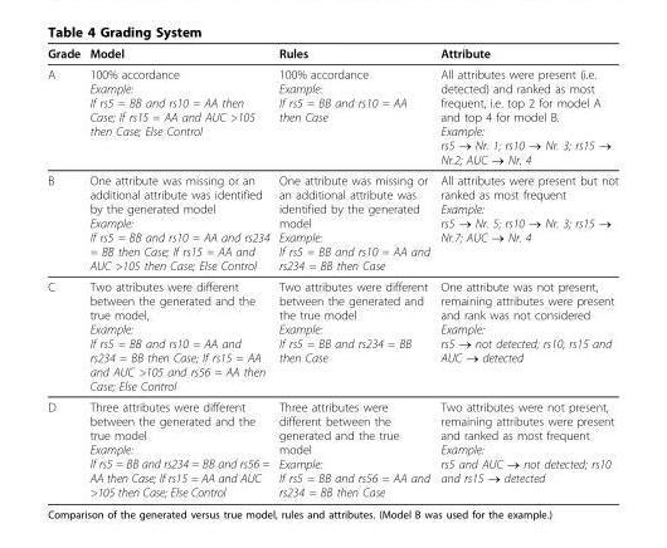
<table><thead><tr><td>Grade</td><td>Model</td><td>Rules</td><td>Attribute</td></tr></thead><tbody><tr><td>A</td><td>100% accordance Example: If rs5 = BB and rs10 = AA then Case; If rs15 = AA and AUC &gt;105 then Case; Else Control</td><td>100% accordance Example: If rs5 = BB and rs10 = AA then Case</td><td>All attributes were present (i.e. detected) and ranked as most frequent, i.e. top 2 for model A and top 4 for model B. Example: rs5 → Nr. 1; rs10 → Nr. 3; rs15 → Nr.2; AUC → Nr. 4</td></tr><tr><td>B</td><td>One attribute was missing or an additional attribute was identified by the generated model Example: If rs5 = BB and rs10 = AA and rs234 = BB then Case; If rs15 = AA and AUC &gt;105 then Case; Else Control</td><td>One attribute was missing or an additional attribute was identified by the generated model Example: If rs5 = BB and rs10 = AA and rs234 = BB then Case</td><td>All attributes were present but not ranked as most frequent Example: rs5 → Nr. 5; rs10 → Nr. 3; rs15 → Nr.7; AUC → Nr. 4</td></tr><tr><td>C</td><td>Two attributes were different between the generated and the true model, Example: If rs5 = BB and rs10 = AA and rs234 = BB then Case; If rs15 = AA and AUC &gt;105 and rs56 = AA then Case; Else Control</td><td>Two attributes were different between the generated and the true model Example: If rs5 = BB and rs234 = BB then Case</td><td>One attribute was not present, remaining attributes were present and rank was not considered Example: rs5 → not detected; rs10, rs15 and AUC → detected</td></tr><tr><td>D</td><td>Three attributes were different between the generated and the true model Example: If rs5 = BB and rs234 = BB and rs56 = AA then Case; If rs15 = AA and AUC &gt;105 then Case; Else Control</td><td>Three attributes were different between the generated and the true model Example: If rs5 = BB and rs56 = AA and rs234 = BB then Case</td><td>Two attributes were not present, remaining attributes were present and ranked as most frequent Example: rs5 and AUC → not detected; rs10 and rs15 → detected</td></tr></tbody></table>